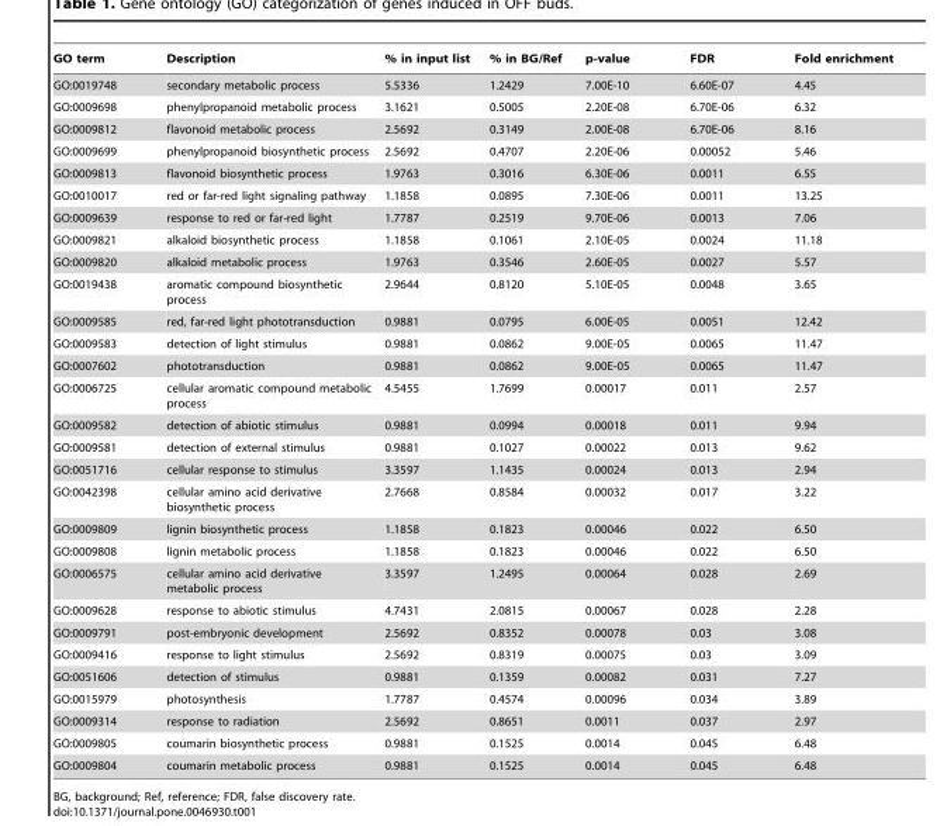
<table><thead><tr><td>GO term</td><td>Description</td><td>% in input list</td><td>% in BG/Ref</td><td>p-value</td><td>FDR</td><td>Fold enrichment</td></tr></thead><tbody><tr><td>GO:0019748</td><td>secondary metabolic process</td><td>5.5336</td><td>1.2429</td><td>7.00E-10</td><td>6.60E-07</td><td>4.45</td></tr><tr><td>GO:0009698</td><td>phenylpropanoid metabolic process</td><td>3.1621</td><td>0.5005</td><td>2.20E-08</td><td>6.70E-06</td><td>6.32</td></tr><tr><td>GO:0009812</td><td>flavonoid metabolic process</td><td>2.5692</td><td>0.3149</td><td>2.00E-08</td><td>6.70E-06</td><td>8.16</td></tr><tr><td>GO:0009699</td><td>phenylpropanoid biosynthetic process</td><td>2.5692</td><td>0.4707</td><td>2.20E-06</td><td>0.00052</td><td>5.46</td></tr><tr><td>GO:0009813</td><td>flavonoid biosynthetic process</td><td>1.9763</td><td>0.3016</td><td>6.30E-06</td><td>0.0011</td><td>6.55</td></tr><tr><td>GO:0010017</td><td>red or far-red light signaling pathway</td><td>1.1858</td><td>0.0895</td><td>7.30E-06</td><td>0.0011</td><td>13.25</td></tr><tr><td>GO:0009639</td><td>response to red or far-red light</td><td>1.7787</td><td>0.2519</td><td>9.70E-06</td><td>0.0013</td><td>7.06</td></tr><tr><td>GO:0009821</td><td>alkaloid biosynthetic process</td><td>1.1858</td><td>0.1061</td><td>2.10E-05</td><td>0.0024</td><td>11.18</td></tr><tr><td>GO:0009820</td><td>alkaloid metabolic process</td><td>1.9763</td><td>0.3546</td><td>2.60E-05</td><td>0.0027</td><td>5.57</td></tr><tr><td>GO:0019438</td><td>aromatic compound biosynthetic process</td><td>2.9644</td><td>0.8120</td><td>5.10E-05</td><td>0.0048</td><td>3.65</td></tr><tr><td>GO:0009585</td><td>red, far-red light phototransduction</td><td>0.9881</td><td>0.0795</td><td>6.00E-05</td><td>0.0051</td><td>12.42</td></tr><tr><td>GO:0009583</td><td>detection of light stimulus</td><td>0.9881</td><td>0.0862</td><td>9.00E-05</td><td>0.0065</td><td>11.47</td></tr><tr><td>GO:0007602</td><td>phototransduction</td><td>0.9881</td><td>0.0862</td><td>9.00E-05</td><td>0.0065</td><td>11.47</td></tr><tr><td>GO:0006725</td><td>cellular aromatic compound metabolic process</td><td>4.5455</td><td>1.7699</td><td>0.00017</td><td>0.011</td><td>2.57</td></tr><tr><td>GO:0009582</td><td>detection of abiotic stimulus</td><td>0.9881</td><td>0.0994</td><td>0.00018</td><td>0.011</td><td>9.94</td></tr><tr><td>GO:0009581</td><td>detection of external stimulus</td><td>0.9881</td><td>0.1027</td><td>0.00022</td><td>0.013</td><td>9.62</td></tr><tr><td>GO:0051716</td><td>cellular response to stimulus</td><td>3.3597</td><td>1.1435</td><td>0.00024</td><td>0.013</td><td>2.94</td></tr><tr><td>GO:0042398</td><td>cellular amino acid derivative biosynthetic process</td><td>2.7668</td><td>0.8584</td><td>0.00032</td><td>0.017</td><td>3.22</td></tr><tr><td>GO:0009809</td><td>lignin biosynthetic process</td><td>1.1858</td><td>0.1823</td><td>0.00046</td><td>0.022</td><td>6.50</td></tr><tr><td>GO:0009808</td><td>lignin metabolic process</td><td>1.1858</td><td>0.1823</td><td>0.00046</td><td>0.022</td><td>6.50</td></tr><tr><td>GO:0006575</td><td>cellular amino acid derivative metabolic process</td><td>3.3597</td><td>1.2495</td><td>0.00064</td><td>0.028</td><td>2.69</td></tr><tr><td>GO:0009628</td><td>response to abiotic stimulus</td><td>4.7431</td><td>2.0815</td><td>0.00067</td><td>0.028</td><td>2.28</td></tr><tr><td>GO:0009791</td><td>post-embryonic development</td><td>2.5692</td><td>0.8352</td><td>0.00078</td><td>0.03</td><td>3.08</td></tr><tr><td>GO:0009416</td><td>response to light stimulus</td><td>2.5692</td><td>0.8319</td><td>0.00075</td><td>0.03</td><td>3.09</td></tr><tr><td>GO:0051606</td><td>detection of stimulus</td><td>0.9881</td><td>0.1359</td><td>0.00082</td><td>0.031</td><td>7.27</td></tr><tr><td>GO:0015979</td><td>photosynthesis</td><td>1.7787</td><td>0.4574</td><td>0.00096</td><td>0.034</td><td>3.89</td></tr><tr><td>GO:0009314</td><td>response to radiation</td><td>2.5692</td><td>0.8651</td><td>0.0011</td><td>0.037</td><td>2.97</td></tr><tr><td>GO:0009805</td><td>coumarin biosynthetic process</td><td>0.9881</td><td>0.1525</td><td>0.0014</td><td>0.045</td><td>6.48</td></tr><tr><td>GO:0009804</td><td>coumarin metabolic process</td><td>0.9881</td><td>0.1525</td><td>0.0014</td><td>0.045</td><td>6.48</td></tr></tbody></table>